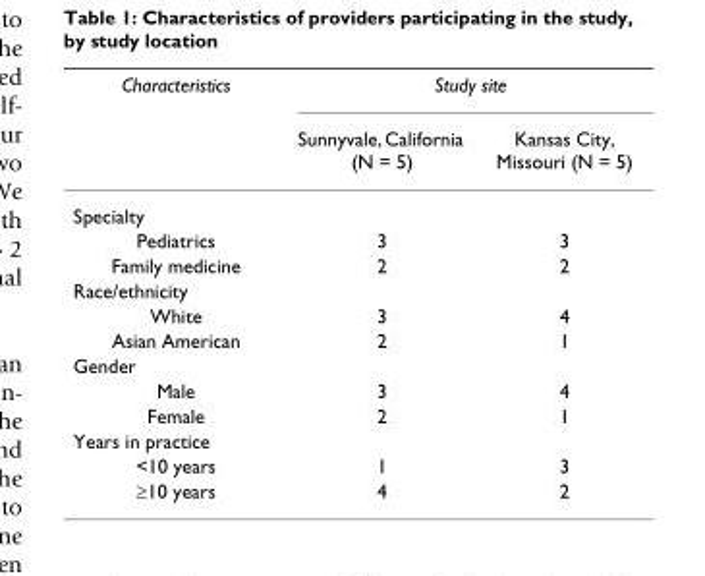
<table><thead><tr><td rowspan="2">Characteristics</td><td colspan="2">Study site</td></tr><tr><td>Sunnyvale, California (N = 5)</td><td>Kansas City, Missouri (N = 5)</td></tr></thead><tbody><tr><td colspan="3">Specialty</td></tr><tr><td>Pediatrics</td><td>3</td><td>3</td></tr><tr><td>Family medicine</td><td>2</td><td>2</td></tr><tr><td colspan="3">Race/ethnicity</td></tr><tr><td>White</td><td>3</td><td>4</td></tr><tr><td>Asian American</td><td>2</td><td>1</td></tr><tr><td colspan="3">Gender</td></tr><tr><td>Male</td><td>3</td><td>4</td></tr><tr><td>Female</td><td>2</td><td>1</td></tr><tr><td colspan="3">Years in practice</td></tr><tr><td>&lt;10 years</td><td>1</td><td>3</td></tr><tr><td>≥10 years</td><td>4</td><td>2</td></tr></tbody></table>